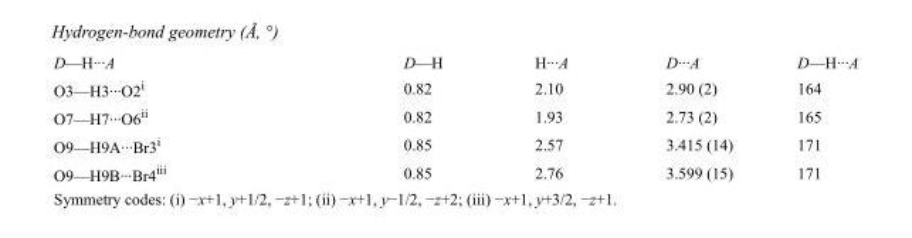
<table><tbody><tr><td>D—H···A</td><td>D—H</td><td>H···A</td><td>D···A</td><td>D—H···A</td></tr><tr><td>O3—H3···O2<sup>i</sup></td><td>0.82</td><td>2.10</td><td>2.90 (2)</td><td>164</td></tr><tr><td>O7—H7···O6<sup>ii</sup></td><td>0.82</td><td>1.93</td><td>2.73 (2)</td><td>165</td></tr><tr><td>O9—H9A···Br3<sup>i</sup></td><td>0.85</td><td>2.57</td><td>3.415 (14)</td><td>171</td></tr><tr><td>O9—H9B···Br4<sup>iii</sup></td><td>0.85</td><td>2.76</td><td>3.599 (15)</td><td>171</td></tr></tbody></table>